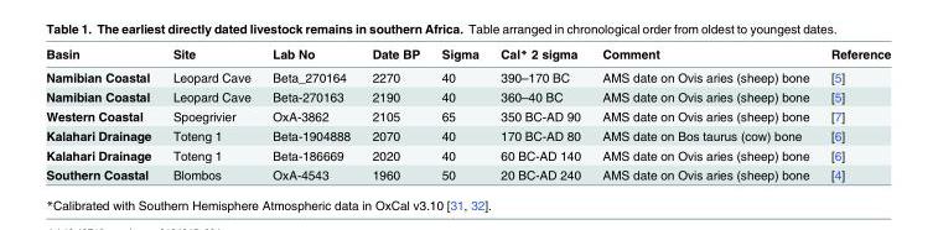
<table><thead><tr><td>Basin</td><td>Site</td><td>Lab No</td><td>Date BP</td><td>Sigma</td><td>Cal* 2 sigma</td><td>Comment</td><td>Reference</td></tr></thead><tbody><tr><td>Namibian Coastal</td><td>Leopard Cave</td><td>Beta_270164</td><td>2270</td><td>40</td><td>390–170 BC</td><td>AMS date on Ovis aries (sheep) bone</td><td>[5]</td></tr><tr><td>Namibian Coastal</td><td>Leopard Cave</td><td>Beta-270163</td><td>2190</td><td>40</td><td>360–40 BC</td><td>AMS date on Ovis aries (sheep) bone</td><td>[5]</td></tr><tr><td>Western Coastal</td><td>Spoegrivier</td><td>OxA-3862</td><td>2105</td><td>65</td><td>350 BC-AD 90</td><td>AMS date on Ovis aries (sheep) bone</td><td>[7]</td></tr><tr><td>Kalahari Drainage</td><td>Toteng 1</td><td>Beta-1904888</td><td>2070</td><td>40</td><td>170 BC-AD 80</td><td>AMS date on Bos taurus (cow) bone</td><td>[6]</td></tr><tr><td>Kalahari Drainage</td><td>Toteng 1</td><td>Beta-186669</td><td>2020</td><td>40</td><td>60 BC-AD 140</td><td>AMS date on Ovis aries (sheep) bone</td><td>[6]</td></tr><tr><td>Southern Coastal</td><td>Blombos</td><td>OxA-4543</td><td>1960</td><td>50</td><td>20 BC-AD 240</td><td>AMS date on Ovis aries (sheep) bone</td><td>[4]</td></tr></tbody></table>